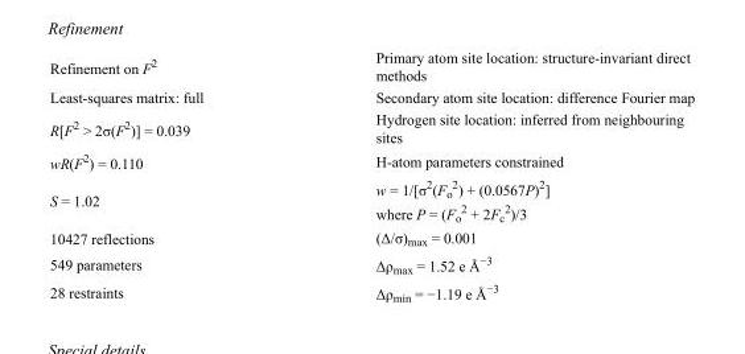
<table><tbody><tr><td>Refinement on F<sup>2</sup></td><td>Primary atom site location: structure-invariant direct methods</td></tr><tr><td>Least-squares matrix: full</td><td>Secondary atom site location: difference Fourier map</td></tr><tr><td>R[F<sup>2</sup> &gt; 2σ(F<sup>2</sup>)] = 0.039</td><td>Hydrogen site location: inferred from neighbouring sites</td></tr><tr><td>wR(F<sup>2</sup>) = 0.110</td><td>H-atom parameters constrained</td></tr><tr><td>S = 1.02</td><td>w = 1/[σ<sup>2</sup>(F<sub>o</sub> <sup>2</sup>) + (0.0567P)<sup>2</sup>] where P = (F<sub>o</sub> <sup>2</sup> + 2F<sub>c</sub> <sup>2</sup>)/3</td></tr><tr><td>10427 reflections</td><td>(Δ/σ)<sub>max</sub> = 0.001</td></tr><tr><td>549 parameters</td><td>Δρ<sub>max</sub> = 1.52 e Å<sup>−3</sup></td></tr><tr><td>28 restraints</td><td>Δρ<sub>min</sub> = −1.19 e Å<sup>−3</sup></td></tr></tbody></table>